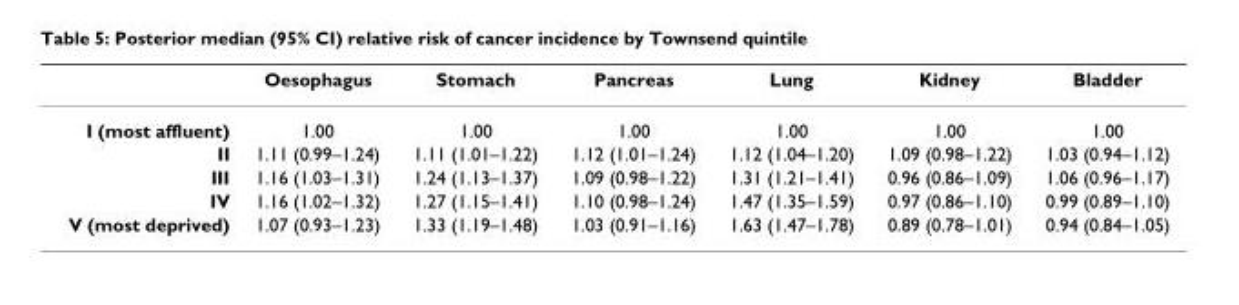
<table><thead><tr><td></td><td>Oesophagus</td><td>Stomach</td><td>Pancreas</td><td>Lung</td><td>Kidney</td><td>Bladder</td></tr></thead><tbody><tr><td>I (most affluent)</td><td>1.00</td><td>1.00</td><td>1.00</td><td>1.00</td><td>1.00</td><td>1.00</td></tr><tr><td>II</td><td>1.11 (0.99–1.24)</td><td>1.11 (1.01–1.22)</td><td>1.12 (1.01–1.24)</td><td>1.12 (1.04–1.20)</td><td>1.09 (0.98–1.22)</td><td>1.03 (0.94–1.12)</td></tr><tr><td>III</td><td>1.16 (1.03–1.31)</td><td>1.24 (1.13–1.37)</td><td>1.09 (0.98–1.22)</td><td>1.31 (1.21–1.41)</td><td>0.96 (0.86–1.09)</td><td>1.06 (0.96–1.17)</td></tr><tr><td>IV</td><td>1.16 (1.02–1.32)</td><td>1.27 (1.15–1.41)</td><td>1.10 (0.98–1.24)</td><td>1.47 (1.35–1.59)</td><td>0.97 (0.86–1.10)</td><td>0.99 (0.89–1.10)</td></tr><tr><td>V (most deprived)</td><td>1.07 (0.93–1.23)</td><td>1.33 (1.19–1.48)</td><td>1.03 (0.91–1.16)</td><td>1.63 (1.47–1.78)</td><td>0.89 (0.78–1.01)</td><td>0.94 (0.84–1.05)</td></tr></tbody></table>